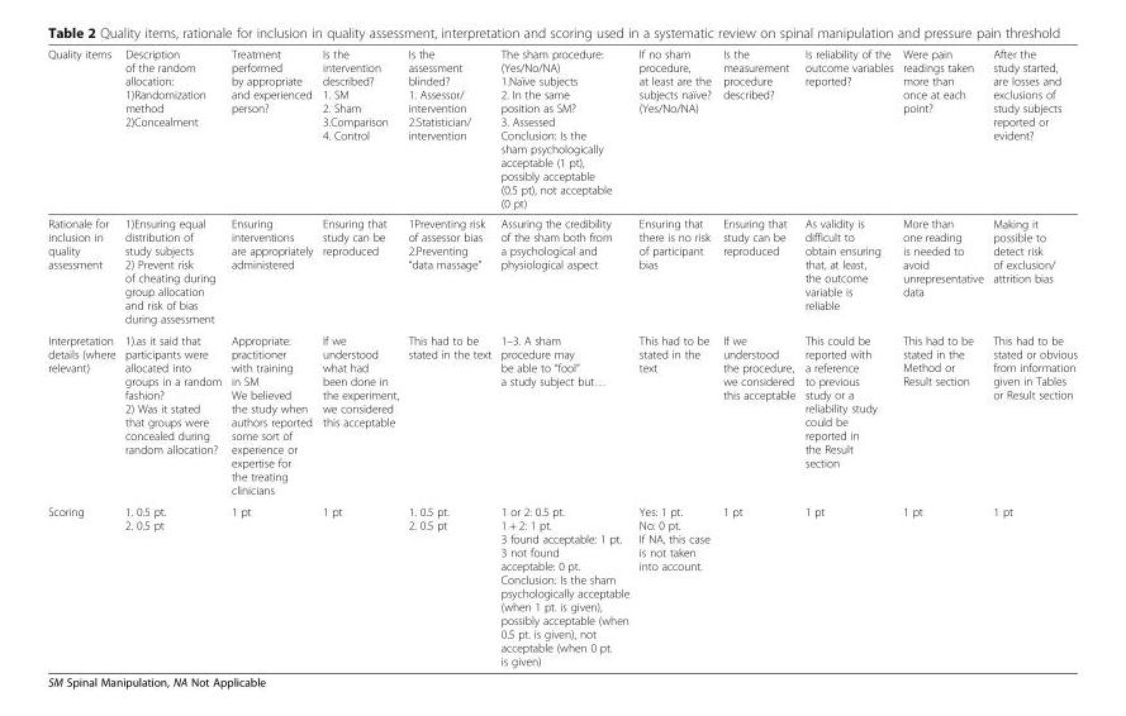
<table><thead><tr><td>Quality items</td><td>Description of the random allocation: 1)Randomization method 2)Concealment</td><td>Treatment performed by appropriate and experienced person?</td><td>Is the intervention described? 1. SM 2. Sham 3.Comparison 4. Control</td><td>Is the assessment blinded? 1. Assessor/ intervention 2.Statistician/ intervention</td><td>The sham procedure: (Yes/No/NA) 1.Naïve subjects 2. In the same position as SM? 3. Assessed Conclusion: Is the sham psychologically acceptable (1 pt), possibly acceptable (0.5 pt), not acceptable (0 pt)</td><td>If no sham procedure, at least are the subjects naïve? (Yes/No/NA)</td><td>Is the measurement procedure described?</td><td>Is reliability of the outcome variables reported?</td><td>Were pain readings taken more than once at each point?</td><td>After the study started, are losses and exclusions of study subjects reported or evident?</td></tr></thead><tbody><tr><td>Rationale for inclusion in quality assessment</td><td>1)Ensuring equal distribution of study subjects 2) Prevent risk of cheating during group allocation and risk of bias during assessment</td><td>Ensuring interventions are appropriately administered</td><td>Ensuring that study can be reproduced</td><td>1Preventing risk of assessor bias 2.Preventing “data massage”</td><td>Assuring the credibility of the sham both from a psychological and physiological aspect</td><td>Ensuring that there is no risk of participant bias</td><td>Ensuring that study can be reproduced</td><td>As validity is difficult to obtain ensuring that, at least, the outcome variable is reliable</td><td>More than one reading is needed to avoid unrepresentative data</td><td>Making it possible to detect risk of exclusion/ attrition bias</td></tr><tr><td>Interpretation details (where relevant)</td><td>1).as it said that participants were allocated into groups in a random fashion? 2) Was it stated that groups were concealed during random allocation?</td><td>Appropriate: practitioner with training in SM We believed the study when authors reported some sort of experience or expertise for the treating clinicians</td><td>If we understood what had been done in the experiment, we considered this acceptable</td><td>This had to be stated in the text</td><td>1–3. A sham procedure may be able to “fool” a study subject but…</td><td>This had to be stated in the text</td><td>If we understood the procedure, we considered this acceptable</td><td>This could be reported with a reference to previous study or a reliability study could be reported in the Result section</td><td>This had to be stated in the Method or Result section</td><td>This had to be stated or obvious from information given in Tables or Result section</td></tr><tr><td>Scoring</td><td>1. 0.5 pt. 2. 0.5 pt</td><td>1 pt</td><td>1 pt</td><td>1. 0.5 pt. 2. 0.5 pt</td><td>1 or 2: 0.5 pt. 1 + 2: 1 pt. 3 found acceptable: 1 pt. 3 not found acceptable: 0 pt. Conclusion: Is the sham psychologically acceptable (when 1 pt. is given), possibly acceptable (when 0.5 pt. is given), not acceptable (when 0 pt. is given)</td><td>Yes: 1 pt. No: 0 pt. If NA, this case is not taken into account.</td><td>1 pt</td><td>1 pt</td><td>1 pt</td><td>1 pt</td></tr></tbody></table>